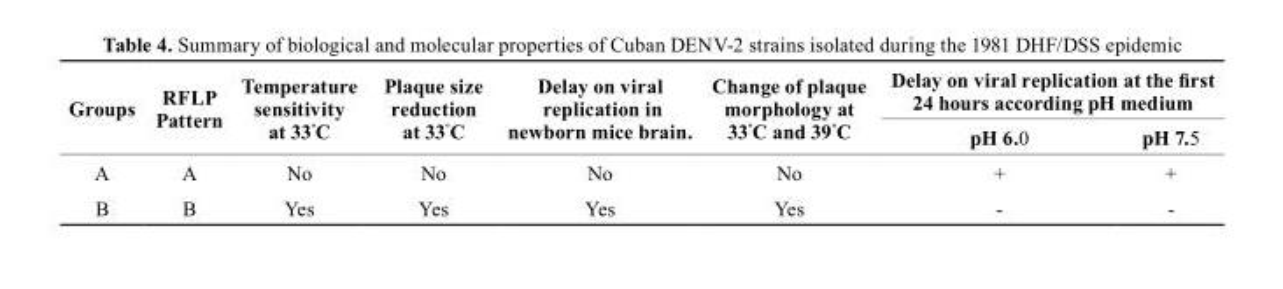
<table><thead><tr><td rowspan="2">Groups</td><td rowspan="2">rFLP Pattern</td><td rowspan="2">temperature sensitivity at 33ºc</td><td rowspan="2">Plaque size reduction at 33ºc</td><td rowspan="2">Delay on viral replication in newborn mice brain.</td><td rowspan="2">change of plaque morphology at 33ºc and 39ºc</td><td colspan="2">Delay on viral replication at the first 24 hours according pH medium</td></tr><tr><td>pH 6.0</td><td>pH 7.5</td></tr></thead><tbody><tr><td>A</td><td>A</td><td>No</td><td>No</td><td>No</td><td>No</td><td>+</td><td>+</td></tr><tr><td>B</td><td>B</td><td>Yes</td><td>Yes</td><td>Yes</td><td>Yes</td><td>-</td><td>-</td></tr></tbody></table>